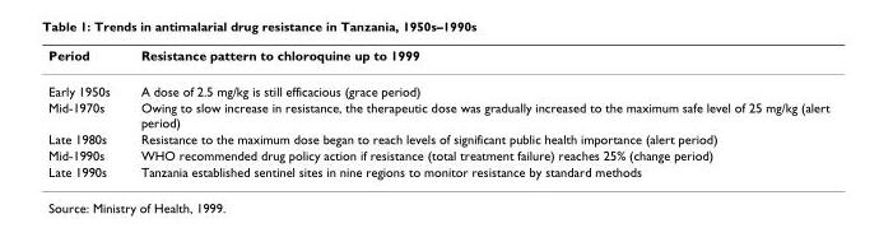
<table><thead><tr><td>Period</td><td>Resistance pattern to chloroquine up to 1999</td></tr></thead><tbody><tr><td>Early 1950s</td><td>A dose of 2.5 mg/kg is still efficacious (grace period)</td></tr><tr><td>Mid-1970s</td><td>Owing to slow increase in resistance, the therapeutic dose was gradually increased to the maximum safe level of 25 mg/kg (alert period)</td></tr><tr><td>Late 1980s</td><td>Resistance to the maximum dose began to reach levels of significant public health importance (alert period)</td></tr><tr><td>Mid-1990s</td><td>WHO recommended drug policy action if resistance (total treatment failure) reaches 25% (change period)</td></tr><tr><td>Late 1990s</td><td>Tanzania established sentinel sites in nine regions to monitor resistance by standard methods</td></tr></tbody></table>